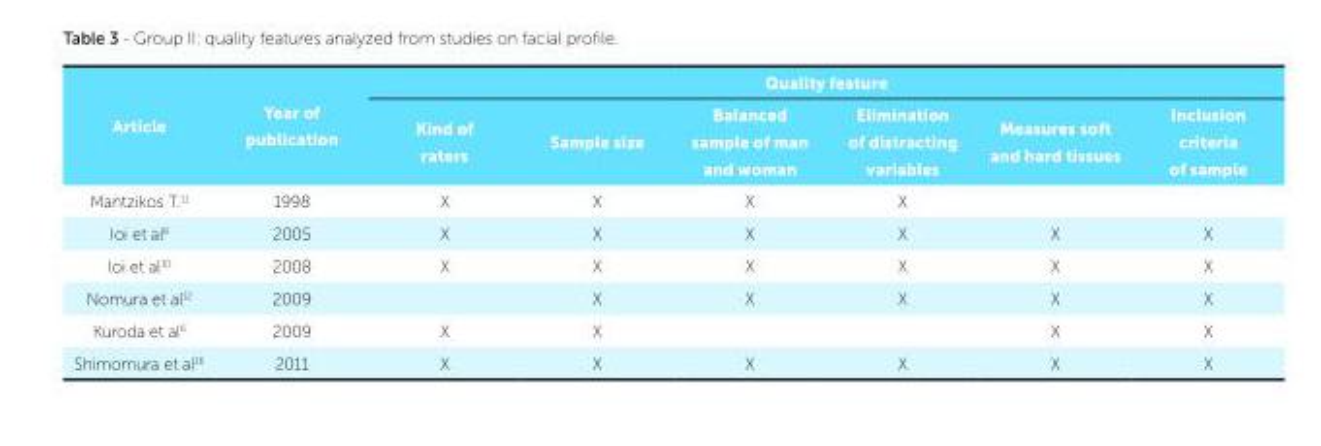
<table><thead><tr><td rowspan="2">Article</td><td rowspan="2">Year of publication</td><td colspan="6">Quality feature</td></tr><tr><td>Kind of raters</td><td>Sample size</td><td>Balanced sample of man and woman</td><td>Elimination of distracting variables</td><td>Measures soft and hard tissues</td><td>Inclusion criteria of sample</td></tr></thead><tbody><tr><td>Mantzikos T.<sup>11</sup></td><td>1998</td><td>X</td><td>X</td><td>X</td><td>X</td><td></td><td></td></tr><tr><td>Ioi et al<sup>8</sup></td><td>2005</td><td>X</td><td>X</td><td>X</td><td>X</td><td>X</td><td>X</td></tr><tr><td>Ioi et al<sup>10</sup></td><td>2008</td><td>X</td><td>X</td><td>X</td><td>X</td><td>X</td><td>X</td></tr><tr><td>Nomura et al<sup>12</sup></td><td>2009</td><td></td><td>X</td><td>X</td><td>X</td><td>X</td><td>X</td></tr><tr><td>Kuroda et al<sup>6</sup></td><td>2009</td><td>X</td><td>X</td><td></td><td></td><td>X</td><td>X</td></tr><tr><td>Shimomura et al<sup>16</sup></td><td>2011</td><td>X</td><td>X</td><td>X</td><td>X</td><td>X</td><td>X</td></tr></tbody></table>